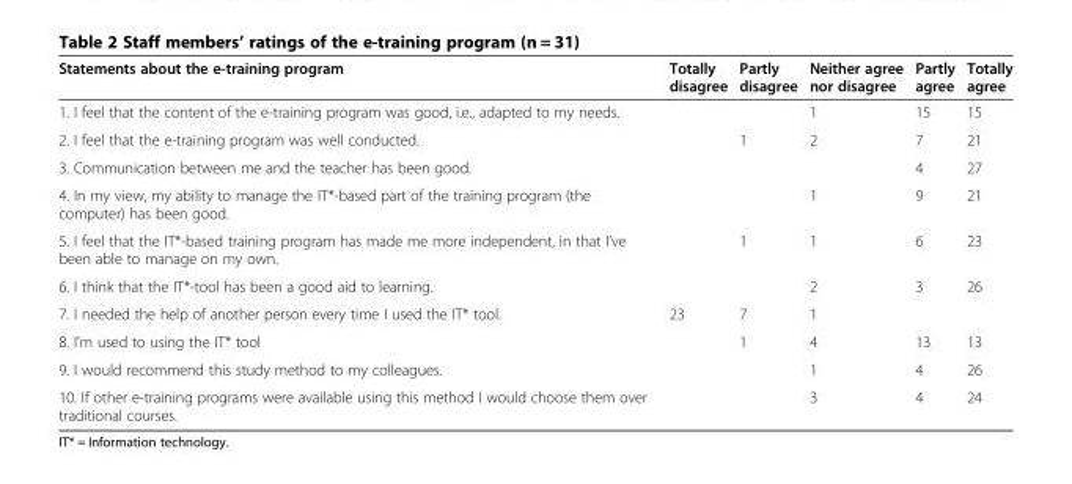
<table><thead><tr><td>Statements about the e-training program</td><td>Totally disagree</td><td>Partly disagree</td><td>Neither agree nor disagree</td><td>Partly agree</td><td>Totally agree</td></tr></thead><tbody><tr><td>1. I feel that the content of the e-training program was good, i.e., adapted to my needs.</td><td></td><td></td><td>1</td><td>15</td><td>15</td></tr><tr><td>2. I feel that the e-training program was well conducted.</td><td></td><td>1</td><td>2</td><td>7</td><td>21</td></tr><tr><td>3. Communication between me and the teacher has been good.</td><td></td><td></td><td></td><td>4</td><td>27</td></tr><tr><td>4. In my view, my ability to manage the IT*-based part of the training program (the computer) has been good.</td><td></td><td></td><td>1</td><td>9</td><td>21</td></tr><tr><td>5. I feel that the IT*-based training program has made me more independent, in that I’ve been able to manage on my own.</td><td></td><td>1</td><td>1</td><td>6</td><td>23</td></tr><tr><td>6. I think that the IT*-tool has been a good aid to learning.</td><td></td><td></td><td>2</td><td>3</td><td>26</td></tr><tr><td>7. I needed the help of another person every time I used the IT* tool.</td><td>23</td><td>7</td><td>1</td><td></td><td></td></tr><tr><td>8. I’m used to using the IT* tool</td><td></td><td>1</td><td>4</td><td>13</td><td>13</td></tr><tr><td>9. I would recommend this study method to my colleagues.</td><td></td><td></td><td>1</td><td>4</td><td>26</td></tr><tr><td>10. If other e-training programs were available using this method I would choose them over traditional courses.</td><td></td><td></td><td>3</td><td>4</td><td>24</td></tr></tbody></table>